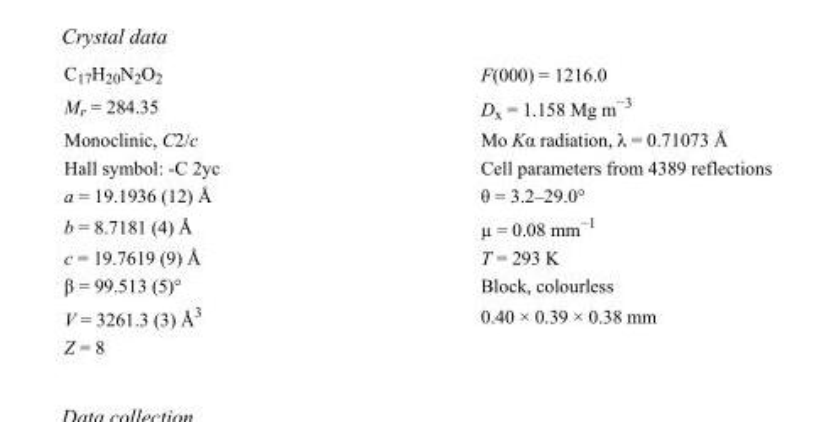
<table><tbody><tr><td>C<sub>17</sub>H<sub>20</sub>N<sub>2</sub>O<sub>2</sub></td><td>F(000) = 1216.0</td></tr><tr><td>M<sub>r</sub> = 284.35</td><td>D<sub>x</sub> = 1.158 Mg m<sup>−3</sup></td></tr><tr><td>Monoclinic, C2/c</td><td>Mo Kα radiation, λ = 0.71073 Å</td></tr><tr><td>Hall symbol: -C 2yc</td><td>Cell parameters from 4389 reflections</td></tr><tr><td>a = 19.1936 (12) Å</td><td>θ = 3.2–29.0°</td></tr><tr><td>b = 8.7181 (4) Å</td><td>µ = 0.08 mm<sup>−1</sup></td></tr><tr><td>c = 19.7619 (9) Å</td><td>T = 293 K</td></tr><tr><td>β = 99.513 (5)°</td><td>Block, colourless</td></tr><tr><td>V = 3261.3 (3) Å<sup>3</sup></td><td>0.40 × 0.39 × 0.38 mm</td></tr><tr><td>Z = 8</td><td></td></tr></tbody></table>